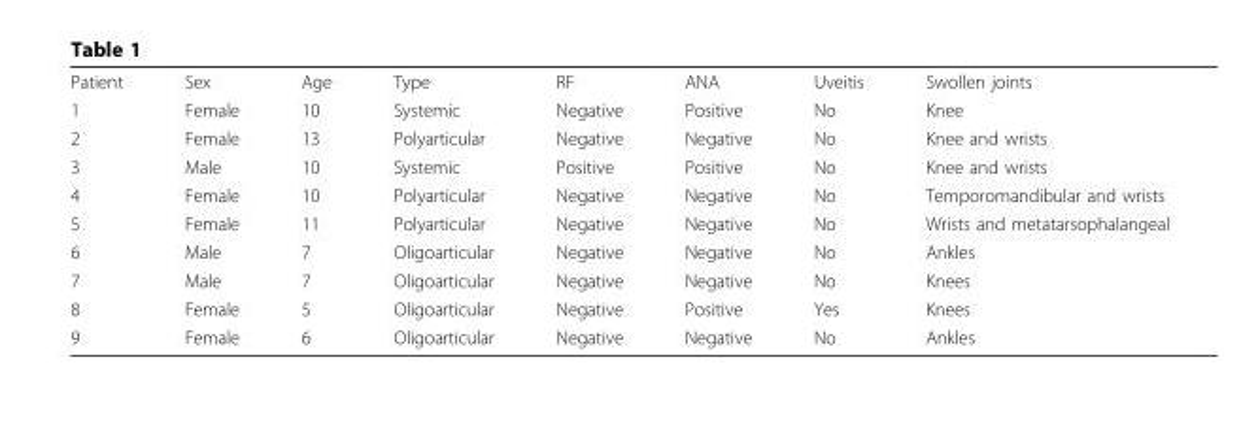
<table><tbody><tr><td>Patient</td><td>Sex</td><td>Age</td><td>Type</td><td>RF</td><td>ANA</td><td>Uveitis</td><td>Swollen joints</td></tr><tr><td>1</td><td>Female</td><td>10</td><td>Systemic</td><td>Negative</td><td>Positive</td><td>No</td><td>Knee</td></tr><tr><td>2</td><td>Female</td><td>13</td><td>Polyarticular</td><td>Negative</td><td>Negative</td><td>No</td><td>Knee and wrists</td></tr><tr><td>3</td><td>Male</td><td>10</td><td>Systemic</td><td>Positive</td><td>Positive</td><td>No</td><td>Knee and wrists</td></tr><tr><td>4</td><td>Female</td><td>10</td><td>Polyarticular</td><td>Negative</td><td>Negative</td><td>No</td><td>Temporomandibular and wrists</td></tr><tr><td>5</td><td>Female</td><td>11</td><td>Polyarticular</td><td>Negative</td><td>Negative</td><td>No</td><td>Wrists and metatarsophalangeal</td></tr><tr><td>6</td><td>Male</td><td>7</td><td>Oligoarticular</td><td>Negative</td><td>Negative</td><td>No</td><td>Ankles</td></tr><tr><td>7</td><td>Male</td><td>7</td><td>Oligoarticular</td><td>Negative</td><td>Negative</td><td>No</td><td>Knees</td></tr><tr><td>8</td><td>Female</td><td>5</td><td>Oligoarticular</td><td>Negative</td><td>Positive</td><td>Yes</td><td>Knees</td></tr><tr><td>9</td><td>Female</td><td>6</td><td>Oligoarticular</td><td>Negative</td><td>Negative</td><td>No</td><td>Ankles</td></tr></tbody></table>